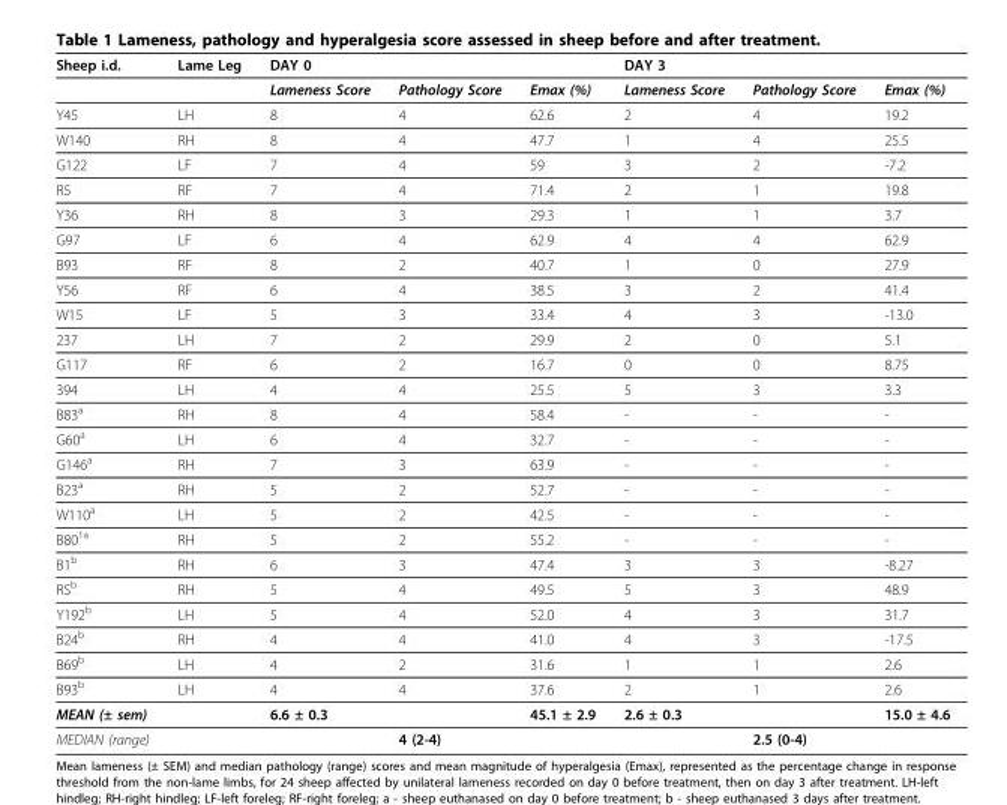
<table><thead><tr><td rowspan="2">Sheep i.d.</td><td rowspan="2">Lame Leg</td><td colspan="3">DAY 0</td><td colspan="3">DAY 3</td></tr><tr><td>Lameness Score</td><td>Pathology Score</td><td>Emax (%)</td><td>Lameness Score</td><td>Pathology Score</td><td>Emax (%)</td></tr></thead><tbody><tr><td>Y45</td><td>LH</td><td>8</td><td>4</td><td>62.6</td><td>2</td><td>4</td><td>19.2</td></tr><tr><td>W140</td><td>RH</td><td>8</td><td>4</td><td>47.7</td><td>1</td><td>4</td><td>25.5</td></tr><tr><td>G122</td><td>LF</td><td>7</td><td>4</td><td>59</td><td>3</td><td>2</td><td>-7.2</td></tr><tr><td>R5</td><td>RF</td><td>7</td><td>4</td><td>71.4</td><td>2</td><td>1</td><td>19.8</td></tr><tr><td>Y36</td><td>RH</td><td>8</td><td>3</td><td>29.3</td><td>1</td><td>1</td><td>3.7</td></tr><tr><td>G97</td><td>LF</td><td>6</td><td>4</td><td>62.9</td><td>4</td><td>4</td><td>62.9</td></tr><tr><td>B93</td><td>RF</td><td>8</td><td>2</td><td>40.7</td><td>1</td><td>0</td><td>27.9</td></tr><tr><td>Y56</td><td>RF</td><td>6</td><td>4</td><td>38.5</td><td>3</td><td>2</td><td>41.4</td></tr><tr><td>W15</td><td>LF</td><td>5</td><td>3</td><td>33.4</td><td>4</td><td>3</td><td>-13.0</td></tr><tr><td>237</td><td>LH</td><td>7</td><td>2</td><td>29.9</td><td>2</td><td>0</td><td>5.1</td></tr><tr><td>G117</td><td>RF</td><td>6</td><td>2</td><td>16.7</td><td>0</td><td>0</td><td>8.75</td></tr><tr><td>394</td><td>LH</td><td>4</td><td>4</td><td>25.5</td><td>5</td><td>3</td><td>3.3</td></tr><tr><td>B83<sup>a</sup></td><td>RH</td><td>8</td><td>4</td><td>58.4</td><td>-</td><td>-</td><td>-</td></tr><tr><td>G60<sup>a</sup></td><td>LH</td><td>6</td><td>4</td><td>32.7</td><td>-</td><td>-</td><td>-</td></tr><tr><td>G146<sup>a</sup></td><td>RH</td><td>7</td><td>3</td><td>63.9</td><td>-</td><td>-</td><td>-</td></tr><tr><td>B23<sup>a</sup></td><td>RH</td><td>5</td><td>2</td><td>52.7</td><td>-</td><td>-</td><td>-</td></tr><tr><td>W110<sup>a</sup></td><td>LH</td><td>5</td><td>2</td><td>42.5</td><td>-</td><td>-</td><td>-</td></tr><tr><td>B80<sup>1a</sup></td><td>RH</td><td>5</td><td>2</td><td>55.2</td><td>-</td><td>-</td><td>-</td></tr><tr><td>B1<sup>b</sup></td><td>RH</td><td>6</td><td>3</td><td>47.4</td><td>3</td><td>3</td><td>-8.27</td></tr><tr><td>RS<sup>b</sup></td><td>RH</td><td>5</td><td>4</td><td>49.5</td><td>5</td><td>3</td><td>48.9</td></tr><tr><td>Y192<sup>b</sup></td><td>LH</td><td>5</td><td>4</td><td>52.0</td><td>4</td><td>3</td><td>31.7</td></tr><tr><td>B24<sup>b</sup></td><td>RH</td><td>4</td><td>4</td><td>41.0</td><td>4</td><td>3</td><td>-17.5</td></tr><tr><td>B69<sup>b</sup></td><td>LH</td><td>4</td><td>2</td><td>31.6</td><td>1</td><td>1</td><td>2.6</td></tr><tr><td>B93<sup>b</sup></td><td>LH</td><td>4</td><td>4</td><td>37.6</td><td>2</td><td>1</td><td>2.6</td></tr><tr><td>MEAN (± sem)</td><td></td><td>6.6 ± 0.3</td><td></td><td>45.1 ± 2.9</td><td>2.6 ± 0.3</td><td></td><td>15.0 ± 4.6</td></tr><tr><td>MEDIAN (range)</td><td></td><td></td><td>4 (2-4)</td><td></td><td></td><td>2.5 (0-4)</td><td></td></tr></tbody></table>